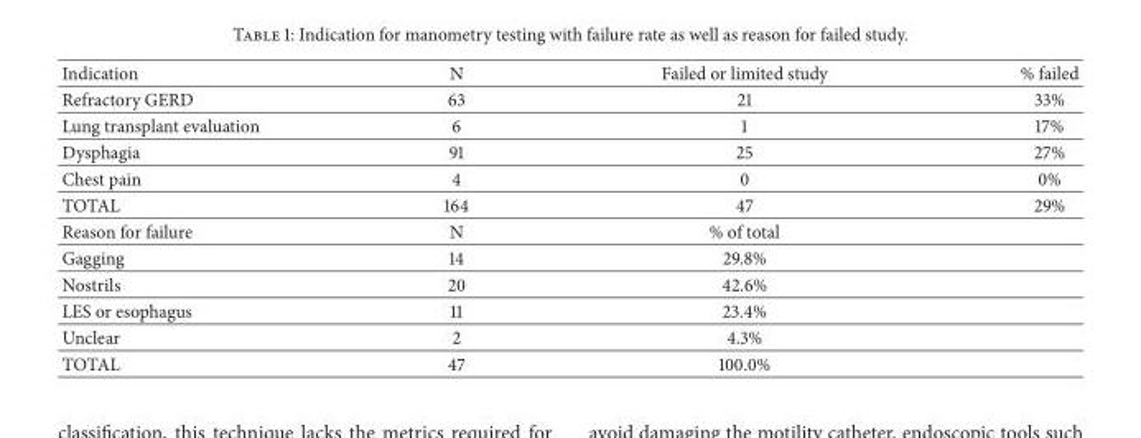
<table><thead><tr><td>Indication</td><td>N</td><td>Failed or limited study</td><td>% failed</td></tr></thead><tbody><tr><td>Refractory GERD</td><td>63</td><td>21</td><td>33%</td></tr><tr><td>Lung transplant evaluation</td><td>6</td><td>1</td><td>17%</td></tr><tr><td>Dysphagia</td><td>91</td><td>25</td><td>27%</td></tr><tr><td>Chest pain</td><td>4</td><td>0</td><td>0%</td></tr><tr><td>TOTAL</td><td>164</td><td>47</td><td>29%</td></tr><tr><td>Reason for failure</td><td>N</td><td>% of total</td><td></td></tr><tr><td>Gagging</td><td>14</td><td>29.8%</td><td></td></tr><tr><td>Nostrils</td><td>20</td><td>42.6%</td><td></td></tr><tr><td>LES or esophagus</td><td>11</td><td>23.4%</td><td></td></tr><tr><td>Unclear</td><td>2</td><td>4.3%</td><td></td></tr><tr><td>TOTAL</td><td>47</td><td>100.0%</td><td></td></tr></tbody></table>